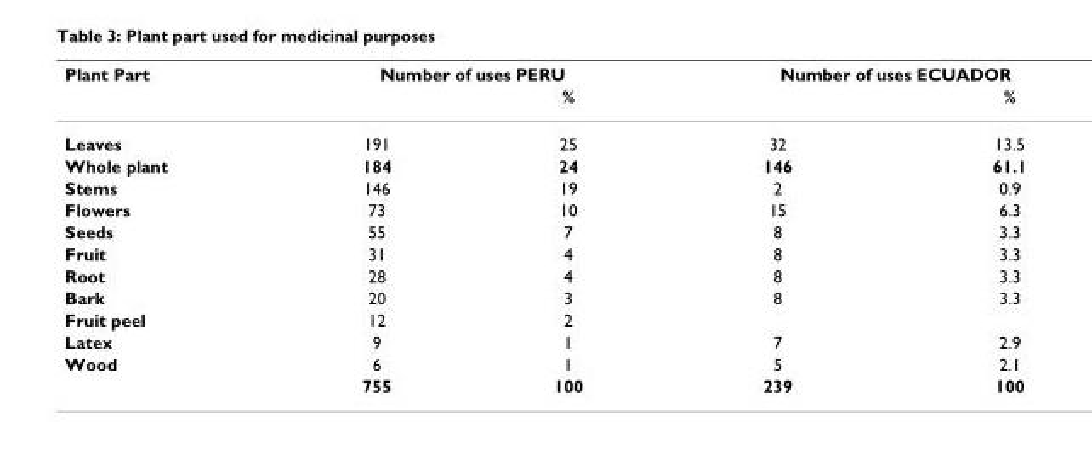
<table><thead><tr><td rowspan="2">Plant Part</td><td colspan="2">Number of uses PERU</td><td colspan="2">Number of uses ECUADOR</td></tr><tr><td></td><td>%</td><td></td><td>%</td></tr></thead><tbody><tr><td>Leaves</td><td>191</td><td>25</td><td>32</td><td>13.5</td></tr><tr><td>Whole plant</td><td>184</td><td>24</td><td>146</td><td>61.1</td></tr><tr><td>Stems</td><td>146</td><td>19</td><td>2</td><td>0.9</td></tr><tr><td>Flowers</td><td>73</td><td>10</td><td>15</td><td>6.3</td></tr><tr><td>Seeds</td><td>55</td><td>7</td><td>8</td><td>3.3</td></tr><tr><td>Fruit</td><td>31</td><td>4</td><td>8</td><td>3.3</td></tr><tr><td>Root</td><td>28</td><td>4</td><td>8</td><td>3.3</td></tr><tr><td>Bark</td><td>20</td><td>3</td><td>8</td><td>3.3</td></tr><tr><td>Fruit peel</td><td>12</td><td>2</td><td></td><td></td></tr><tr><td>Latex</td><td>9</td><td>1</td><td>7</td><td>2.9</td></tr><tr><td rowspan="2">Wood</td><td>6</td><td>1</td><td>5</td><td>2.1</td></tr><tr><td>755</td><td>100</td><td>239</td><td>100</td></tr></tbody></table>